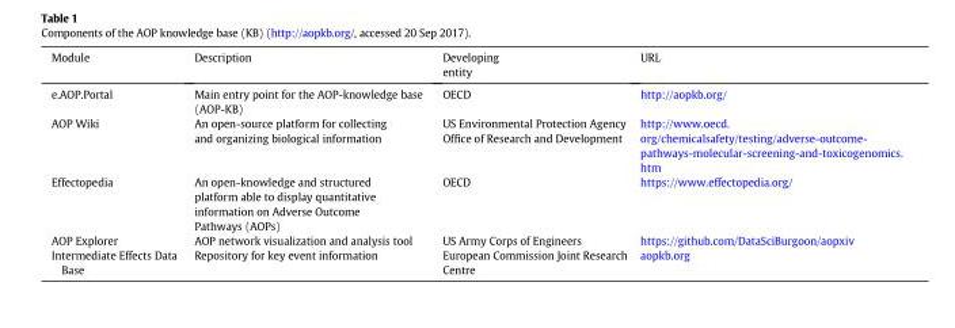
<table><thead><tr><td>Module</td><td>Description</td><td>Developing entity</td><td>URL</td></tr></thead><tbody><tr><td>e.AOP.Portal</td><td>Main entry point for the AOP-knowledge base (AOP-KB)</td><td>OECD</td><td>http://aopkb.org/</td></tr><tr><td>AOP Wiki</td><td>An open-source platform for collecting and organizing biological information</td><td>US Environmental Protection Agency Office of Research and Development</td><td>http://www.oecd. org/chemicalsafety/testing/adverse-outcome- pathways-molecular-screening-and-toxicogenomics. htm</td></tr><tr><td>Effectopedia</td><td>An open-knowledge and structured platform able to display quantitative information on Adverse Outcome Pathways (AOPs)</td><td>OECD</td><td>https://www.effectopedia.org/</td></tr><tr><td>AOP Explorer</td><td>AOP network visualization and analysis tool</td><td>US Army Corps of Engineers</td><td>https://github.com/DataSciBurgoon/aopxiv</td></tr><tr><td>Intermediate Effects Data Base</td><td>Repository for key event information</td><td>European Commission Joint Research Centre</td><td>aopkb.org</td></tr></tbody></table>